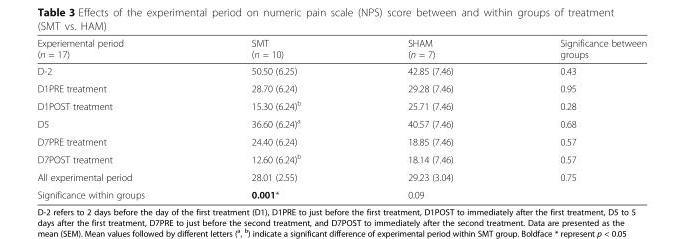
<table><thead><tr><td>Experiemental period (n = 17)</td><td>SMT (n = 10)</td><td>SHAM (n = 7)</td><td>Significance between groups</td></tr></thead><tbody><tr><td>D-2</td><td>50.50 (6.25)</td><td>42.85 (7.46)</td><td>0.43</td></tr><tr><td>D1PRE treatment</td><td>28.70 (6.24)</td><td>29.28 (7.46)</td><td>0.95</td></tr><tr><td>D1POST treatment</td><td>15.30 (6.24)<sup>b</sup></td><td>25.71 (7.46)</td><td>0.28</td></tr><tr><td>D5</td><td>36.60 (6.24)<sup>a</sup></td><td>40.57 (7.46)</td><td>0.68</td></tr><tr><td>D7PRE treatment</td><td>24.40 (6.24)</td><td>18.85 (7.46)</td><td>0.57</td></tr><tr><td>D7POST treatment</td><td>12.60 (6.24)<sup>b</sup></td><td>18.14 (7.46)</td><td>0.57</td></tr><tr><td>All experimental period</td><td>28.01 (2.55)</td><td>29.23 (3.04)</td><td>0.75</td></tr><tr><td>Significance within groups</td><td>0.001*</td><td>0.09</td><td></td></tr></tbody></table>